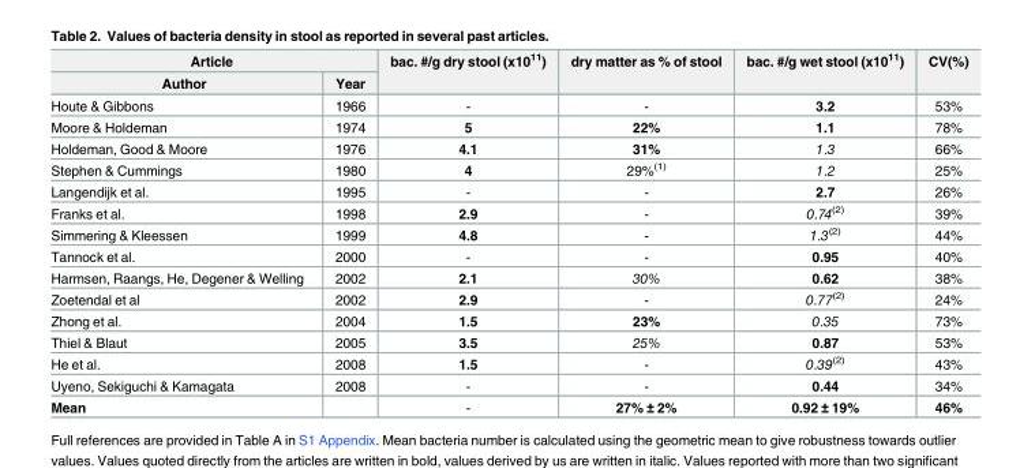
<table><thead><tr><td colspan="2">Article</td><td rowspan="2">bac. #/g dry stool (x10<sup>11</sup>)</td><td rowspan="2">dry matter as % of stool</td><td rowspan="2">bac. #/g wet stool (x10<sup>11</sup>)</td><td rowspan="2">CV(%)</td></tr><tr><td>Author</td><td>Year</td></tr></thead><tbody><tr><td>Houte &amp; Gibbons</td><td>1966</td><td>-</td><td>-</td><td>3.2</td><td>53%</td></tr><tr><td>Moore &amp; Holdeman</td><td>1974</td><td>5</td><td>22%</td><td>1.1</td><td>78%</td></tr><tr><td>Holdeman, Good &amp; Moore</td><td>1976</td><td>4.1</td><td>31%</td><td>1.3</td><td>66%</td></tr><tr><td>Stephen &amp; Cummings</td><td>1980</td><td>4</td><td>29%<sup>(1)</sup></td><td>1.2</td><td>25%</td></tr><tr><td>Langendijk et al.</td><td>1995</td><td>-</td><td>-</td><td>2.7</td><td>26%</td></tr><tr><td>Franks et al.</td><td>1998</td><td>2.9</td><td>-</td><td>0.74<sup>(2)</sup></td><td>39%</td></tr><tr><td>Simmering &amp; Kleessen</td><td>1999</td><td>4.8</td><td>-</td><td>1.3<sup>(2)</sup></td><td>44%</td></tr><tr><td>Tannock et al.</td><td>2000</td><td>-</td><td>-</td><td>0.95</td><td>40%</td></tr><tr><td>Harmsen, Raangs, He, Degener &amp; Welling</td><td>2002</td><td>2.1</td><td>30%</td><td>0.62</td><td>38%</td></tr><tr><td>Zoetendal et al</td><td>2002</td><td>2.9</td><td>-</td><td>0.77<sup>(2)</sup></td><td>24%</td></tr><tr><td>Zhong et al.</td><td>2004</td><td>1.5</td><td>23%</td><td>0.35</td><td>73%</td></tr><tr><td>Thiel &amp; Blaut</td><td>2005</td><td>3.5</td><td>25%</td><td>0.87</td><td>53%</td></tr><tr><td>He et al.</td><td>2008</td><td>1.5</td><td>-</td><td>0.39<sup>(2)</sup></td><td>43%</td></tr><tr><td>Uyeno, Sekiguchi &amp; Kamagata</td><td>2008</td><td>-</td><td>-</td><td>0.44</td><td>34%</td></tr><tr><td>Mean</td><td></td><td>-</td><td>27% ± 2%</td><td>0.92 ± 19%</td><td>46%</td></tr></tbody></table>